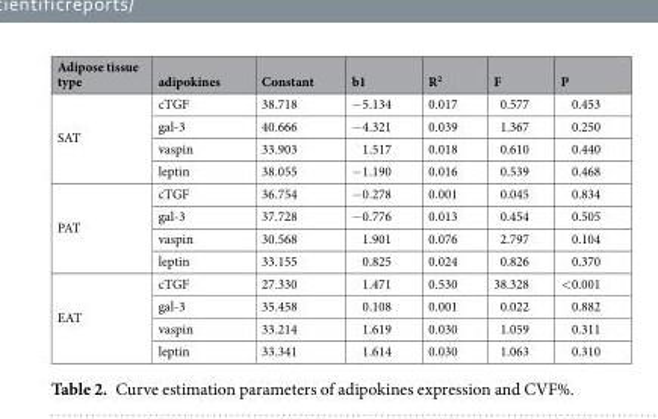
<table><thead><tr><td>Adipose tissue type</td><td>adipokines</td><td>Constant</td><td>b1</td><td>R<sup>2</sup></td><td>F</td><td>P</td></tr></thead><tbody><tr><td rowspan="4">SAT</td><td>cTGF</td><td>38.718</td><td>−5.134</td><td>0.017</td><td>0.577</td><td>0.453</td></tr><tr><td>gal-3</td><td>40.666</td><td>−4.321</td><td>0.039</td><td>1.367</td><td>0.250</td></tr><tr><td>vaspin</td><td>33.903</td><td>1.517</td><td>0.018</td><td>0.610</td><td>0.440</td></tr><tr><td>leptin</td><td>38.055</td><td>−1.190</td><td>0.016</td><td>0.539</td><td>0.468</td></tr><tr><td rowspan="4">PAT</td><td>cTGF</td><td>36.754</td><td>−0.278</td><td>0.001</td><td>0.045</td><td>0.834</td></tr><tr><td>gal-3</td><td>37.728</td><td>−0.776</td><td>0.013</td><td>0.454</td><td>0.505</td></tr><tr><td>vaspin</td><td>30.568</td><td>1.901</td><td>0.076</td><td>2.797</td><td>0.104</td></tr><tr><td>leptin</td><td>33.155</td><td>0.825</td><td>0.024</td><td>0.826</td><td>0.370</td></tr><tr><td rowspan="4">EAT</td><td>cTGF</td><td>27.330</td><td>1.471</td><td>0.530</td><td>38.328</td><td>&lt;0.001</td></tr><tr><td>gal-3</td><td>35.458</td><td>0.108</td><td>0.001</td><td>0.022</td><td>0.882</td></tr><tr><td>vaspin</td><td>33.214</td><td>1.619</td><td>0.030</td><td>1.059</td><td>0.311</td></tr><tr><td>leptin</td><td>33.341</td><td>1.614</td><td>0.030</td><td>1.063</td><td>0.310</td></tr></tbody></table>